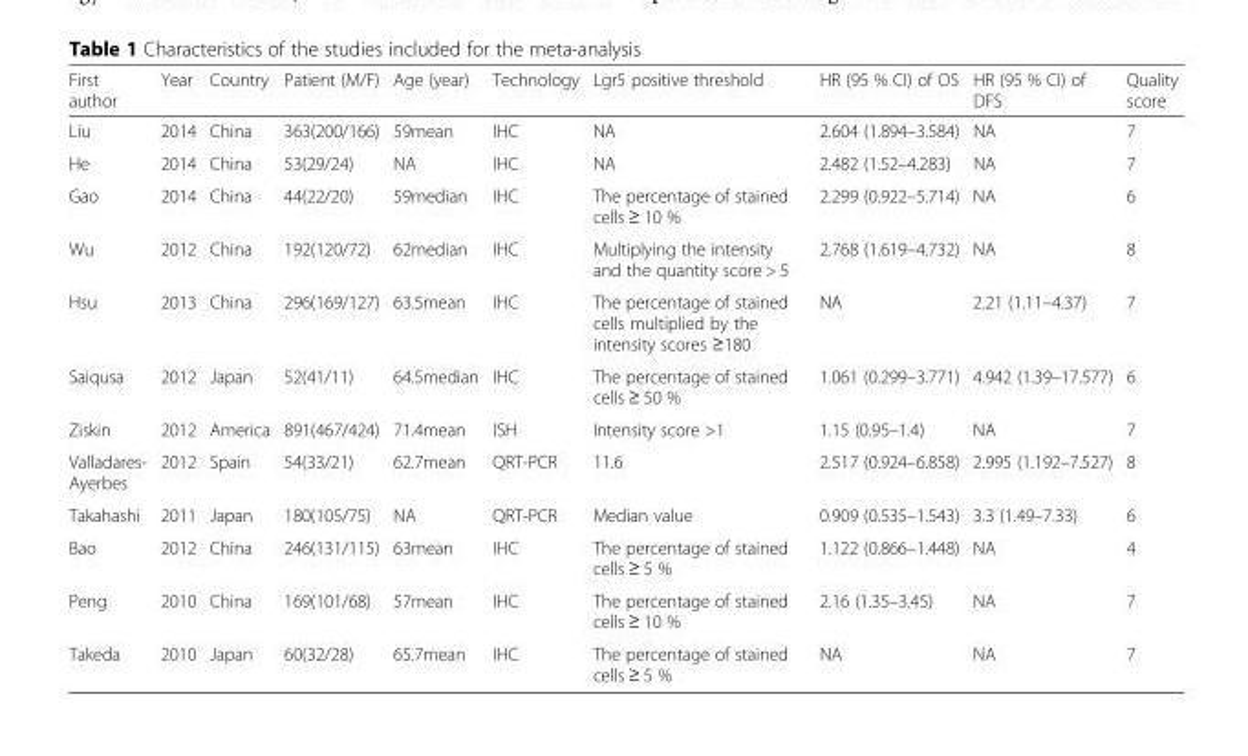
<table><thead><tr><td>First author</td><td>Year</td><td>Country</td><td>Patient (M/F)</td><td>Age (year)</td><td>Technology</td><td>Lgr5 positive threshold</td><td>HR (95 % CI) of OS</td><td>HR (95 % CI) of DFS</td><td>Quality score</td></tr></thead><tbody><tr><td>Liu</td><td>2014</td><td>China</td><td>363(200/166)</td><td>59mean</td><td>IHC</td><td>NA</td><td>2.604 (1.894–3.584)</td><td>NA</td><td>7</td></tr><tr><td>He</td><td>2014</td><td>China</td><td>53(29/24)</td><td>NA</td><td>IHC</td><td>NA</td><td>2.482 (1.52–4.283)</td><td>NA</td><td>7</td></tr><tr><td>Gao</td><td>2014</td><td>China</td><td>44(22/20)</td><td>59median</td><td>IHC</td><td>The percentage of stained cells ≥ 10 %</td><td>2.299 (0.922–5.714)</td><td>NA</td><td>6</td></tr><tr><td>Wu</td><td>2012</td><td>China</td><td>192(120/72)</td><td>62median</td><td>IHC</td><td>Multiplying the intensity and the quantity score &gt; 5</td><td>2.768 (1.619–4.732)</td><td>NA</td><td>8</td></tr><tr><td>Hsu</td><td>2013</td><td>China</td><td>296(169/127)</td><td>63.5mean</td><td>IHC</td><td>The percentage of stained cells multiplied by the intensity scores ≥180</td><td>NA</td><td>2.21 (1.11–4.37)</td><td>7</td></tr><tr><td>Saiqusa</td><td>2012</td><td>Japan</td><td>52(41/11)</td><td>64.5median</td><td>IHC</td><td>The percentage of stained cells ≥ 50 %</td><td>1.061 (0.299–3.771)</td><td>4.942 (1.39–17.577)</td><td>6</td></tr><tr><td>Ziskin</td><td>2012</td><td>America</td><td>891(467/424)</td><td>71.4mean</td><td>ISH</td><td>Intensity score &gt;1</td><td>1.15 (0.95–1.4)</td><td>NA</td><td>7</td></tr><tr><td>Valladares- Ayerbes</td><td>2012</td><td>Spain</td><td>54(33/21)</td><td>62.7mean</td><td>QRT-PCR</td><td>11.6</td><td>2.517 (0.924–6.858)</td><td>2.995 (1.192–7.527)</td><td>8</td></tr><tr><td>Takahashi</td><td>2011</td><td>Japan</td><td>180(105/75)</td><td>NA</td><td>QRT-PCR</td><td>Median value</td><td>0.909 (0.535–1.543)</td><td>3.3 (1.49–7.33)</td><td>6</td></tr><tr><td>Bao</td><td>2012</td><td>China</td><td>246(131/115)</td><td>63mean</td><td>IHC</td><td>The percentage of stained cells ≥ 5 %</td><td>1.122 (0.866–1.448)</td><td>NA</td><td>4</td></tr><tr><td>Peng</td><td>2010</td><td>China</td><td>169(101/68)</td><td>57mean</td><td>IHC</td><td>The percentage of stained cells ≥ 10 %</td><td>2.16 (1.35–3.45)</td><td>NA</td><td>7</td></tr><tr><td>Takeda</td><td>2010</td><td>Japan</td><td>60(32/28)</td><td>65.7mean</td><td>IHC</td><td>The percentage of stained cells ≥ 5 %</td><td>NA</td><td>NA</td><td>7</td></tr></tbody></table>